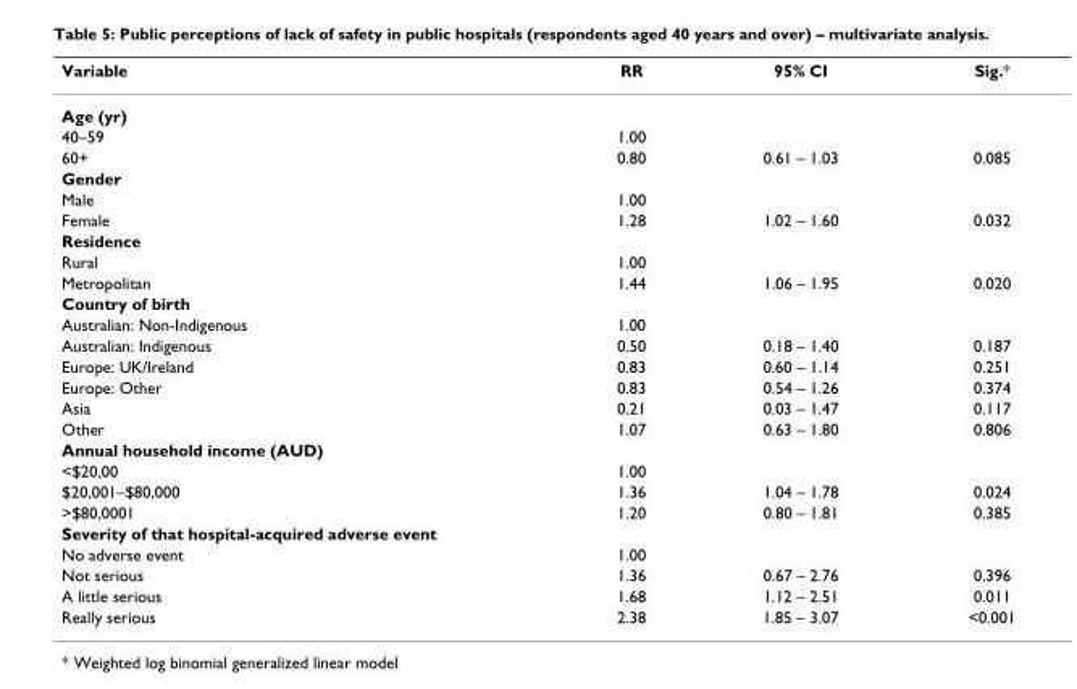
<table><thead><tr><td>Variable</td><td>RR</td><td>95% CI</td><td>Sig.*</td></tr></thead><tbody><tr><td colspan="4">Age (yr)</td></tr><tr><td>40–59</td><td>1.00</td><td></td><td></td></tr><tr><td>60+</td><td>0.80</td><td>0.61 – 1.03</td><td>0.085</td></tr><tr><td colspan="4">Gender</td></tr><tr><td>Male</td><td>1.00</td><td></td><td></td></tr><tr><td>Female</td><td>1.28</td><td>1.02 – 1.60</td><td>0.032</td></tr><tr><td colspan="4">Residence</td></tr><tr><td>Rural</td><td>1.00</td><td></td><td></td></tr><tr><td>Metropolitan</td><td>1.44</td><td>1.06 – 1.95</td><td>0.020</td></tr><tr><td colspan="4">Country of birth</td></tr><tr><td>Australian: Non-Indigenous</td><td>1.00</td><td></td><td></td></tr><tr><td>Australian: Indigenous</td><td>0.50</td><td>0.18 – 1.40</td><td>0.187</td></tr><tr><td>Europe: UK/Ireland</td><td>0.83</td><td>0.60 – 1.14</td><td>0.251</td></tr><tr><td>Europe: Other</td><td>0.83</td><td>0.54 – 1.26</td><td>0.374</td></tr><tr><td>Asia</td><td>0.21</td><td>0.03 – 1.47</td><td>0.117</td></tr><tr><td>Other</td><td>1.07</td><td>0.63 – 1.80</td><td>0.806</td></tr><tr><td colspan="4">Annual household income (AUD)</td></tr><tr><td>&lt;$20,00</td><td>1.00</td><td></td><td></td></tr><tr><td>$20,001–$80,000</td><td>1.36</td><td>1.04 – 1.78</td><td>0.024</td></tr><tr><td>&gt;$80,0001</td><td>1.20</td><td>0.80 – 1.81</td><td>0.385</td></tr><tr><td colspan="4">Severity of that hospital-acquired adverse event</td></tr><tr><td>No adverse event</td><td>1.00</td><td></td><td></td></tr><tr><td>Not serious</td><td>1.36</td><td>0.67 – 2.76</td><td>0.396</td></tr><tr><td>A little serious</td><td>1.68</td><td>1.12 – 2.51</td><td>0.011</td></tr><tr><td>Really serious</td><td>2.38</td><td>1.85 – 3.07</td><td>&lt;0.001</td></tr></tbody></table>